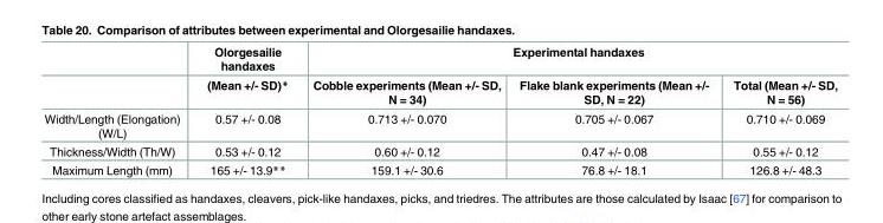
<table><thead><tr><td rowspan="2"></td><td rowspan="2">Olorgesailie handaxes (Mean +/- SD)*</td><td colspan="3">Experimental handaxes</td></tr><tr><td>Cobble experiments (Mean +/- SD, N = 34)</td><td>Flake blank experiments (Mean +/- SD, N = 22)</td><td>Total (Mean +/- SD, N = 56)</td></tr></thead><tbody><tr><td>Width/Length (Elongation) (W/L)</td><td>0.57 +/- 0.08</td><td>0.713 +/- 0.070</td><td>0.705 +/- 0.067</td><td>0.710 +/- 0.069</td></tr><tr><td>Thickness/Width (Th/W)</td><td>0.53 +/- 0.12</td><td>0.60 +/- 0.12</td><td>0.47 +/- 0.08</td><td>0.55 +/- 0.12</td></tr><tr><td>Maximum Length (mm)</td><td>165 +/- 13.9**</td><td>159.1 +/- 30.6</td><td>76.8 +/- 18.1</td><td>126.8 +/- 48.3</td></tr></tbody></table>